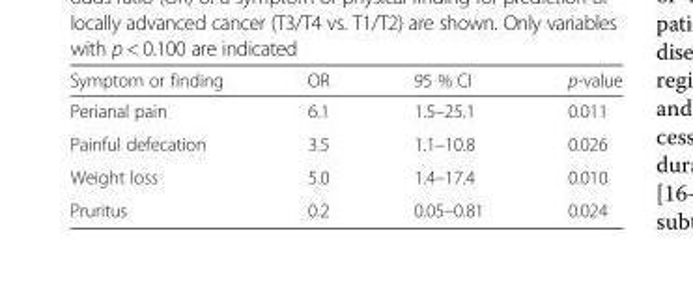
<table><thead><tr><td>Symptom or finding</td><td>OR</td><td>95 % CI</td><td>p-value</td></tr></thead><tbody><tr><td>Perianal pain</td><td>6.1</td><td>1.5–25.1</td><td>0.011</td></tr><tr><td>Painful defecation</td><td>3.5</td><td>1.1–10.8</td><td>0.026</td></tr><tr><td>Weight loss</td><td>5.0</td><td>1.4–17.4</td><td>0.010</td></tr><tr><td>Pruritus</td><td>0.2</td><td>0.05–0.81</td><td>0.024</td></tr></tbody></table>